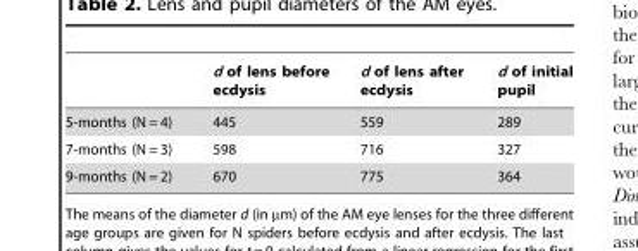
<table><thead><tr><td></td><td>d of lens before ecdysis</td><td>d of lens after ecdysis</td><td>d of initial pupil</td></tr></thead><tbody><tr><td>5-months (N = 4)</td><td>445</td><td>559</td><td>289</td></tr><tr><td>7-months (N = 3)</td><td>598</td><td>716</td><td>327</td></tr><tr><td>9-months (N = 2)</td><td>670</td><td>775</td><td>364</td></tr></tbody></table>